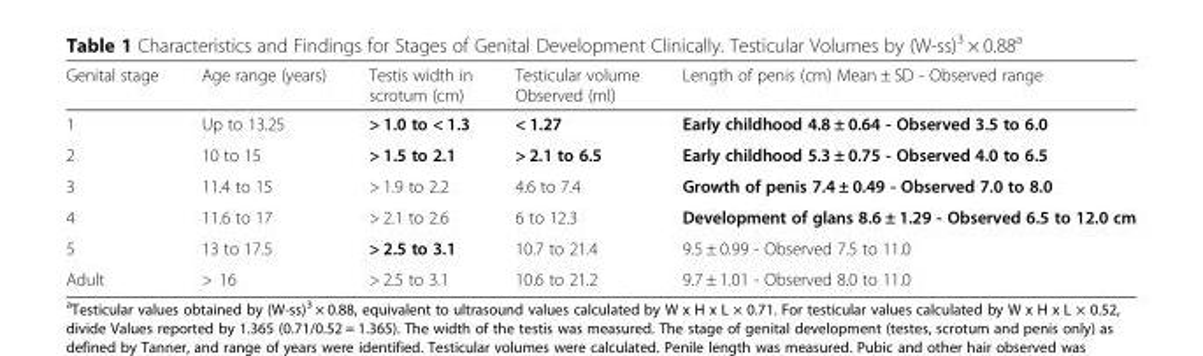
<table><thead><tr><td>Genital stage</td><td>Age range (years)</td><td>Testis width in scrotum (cm)</td><td>Testicular volume Observed (ml)</td><td>Length of penis (cm) Mean ± SD - Observed range</td></tr></thead><tbody><tr><td>1</td><td>Up to 13.25</td><td>&gt; 1.0 to &lt; 1.3</td><td>&lt; 1.27</td><td>Early childhood 4.8 ± 0.64 - Observed 3.5 to 6.0</td></tr><tr><td>2</td><td>10 to 15</td><td>&gt; 1.5 to 2.1</td><td>&gt; 2.1 to 6.5</td><td>Early childhood 5.3 ± 0.75 - Observed 4.0 to 6.5</td></tr><tr><td>3</td><td>11.4 to 15</td><td>&gt; 1.9 to 2.2</td><td>4.6 to 7.4</td><td>Growth of penis 7.4 ± 0.49 - Observed 7.0 to 8.0</td></tr><tr><td>4</td><td>11.6 to 17</td><td>&gt; 2.1 to 2.6</td><td>6 to 12.3</td><td>Development of glans 8.6 ± 1.29 - Observed 6.5 to 12.0 cm</td></tr><tr><td>5</td><td>13 to 17.5</td><td>&gt; 2.5 to 3.1</td><td>10.7 to 21.4</td><td>9.5 ± 0.99 - Observed 7.5 to 11.0</td></tr><tr><td>Adult</td><td>&gt; 16</td><td>&gt; 2.5 to 3.1</td><td>10.6 to 21.2</td><td>9.7 ± 1.01 - Observed 8.0 to 11.0</td></tr></tbody></table>